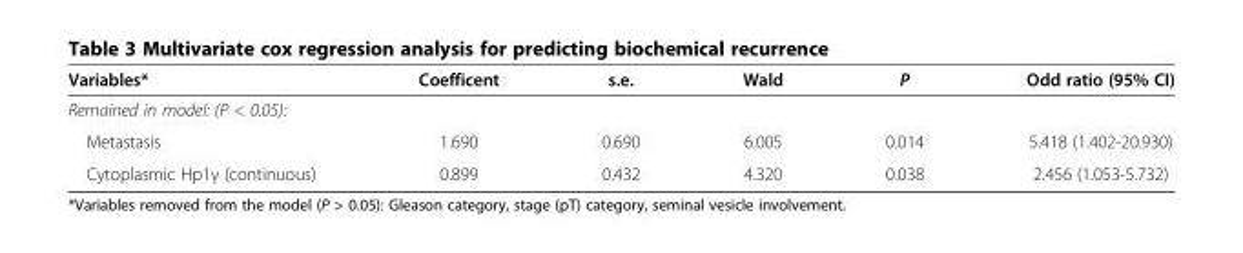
<table><thead><tr><td>Variables*</td><td>Coefficent</td><td>s.e.</td><td>Wald</td><td>P</td><td>Odd ratio (95% CI)</td></tr></thead><tbody><tr><td colspan="6">Remained in model: (P &lt; 0.05):</td></tr><tr><td>Metastasis</td><td>1.690</td><td>0.690</td><td>6.005</td><td>0.014</td><td>5.418 (1.402-20.930)</td></tr><tr><td>Cytoplasmic Hp1γ (continuous)</td><td>0.899</td><td>0.432</td><td>4.320</td><td>0.038</td><td>2.456 (1.053-5.732)</td></tr></tbody></table>